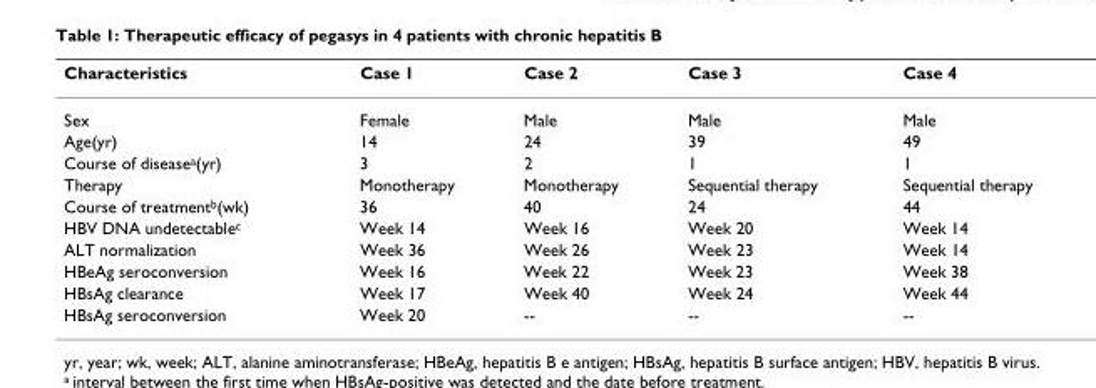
<table><thead><tr><td>Characteristics</td><td>Case 1</td><td>Case 2</td><td>Case 3</td><td>Case 4</td></tr></thead><tbody><tr><td>Sex</td><td>Female</td><td>Male</td><td>Male</td><td>Male</td></tr><tr><td>Age(yr)</td><td>14</td><td>24</td><td>39</td><td>49</td></tr><tr><td>Course of disease<sup>a</sup>(yr)</td><td>3</td><td>2</td><td>1</td><td>1</td></tr><tr><td>Therapy</td><td>Monotherapy</td><td>Monotherapy</td><td>Sequential therapy</td><td>Sequential therapy</td></tr><tr><td>Course of treatment<sup>b</sup>(wk)</td><td>36</td><td>40</td><td>24</td><td>44</td></tr><tr><td>HBV DNA undetectable<sup>c</sup></td><td>Week 14</td><td>Week 16</td><td>Week 20</td><td>Week 14</td></tr><tr><td>ALT normalization</td><td>Week 36</td><td>Week 26</td><td>Week 23</td><td>Week 14</td></tr><tr><td>HBeAg seroconversion</td><td>Week 16</td><td>Week 22</td><td>Week 23</td><td>Week 38</td></tr><tr><td>HBsAg clearance</td><td>Week 17</td><td>Week 40</td><td>Week 24</td><td>Week 44</td></tr><tr><td>HBsAg seroconversion</td><td>Week 20</td><td>--</td><td>--</td><td>--</td></tr></tbody></table>